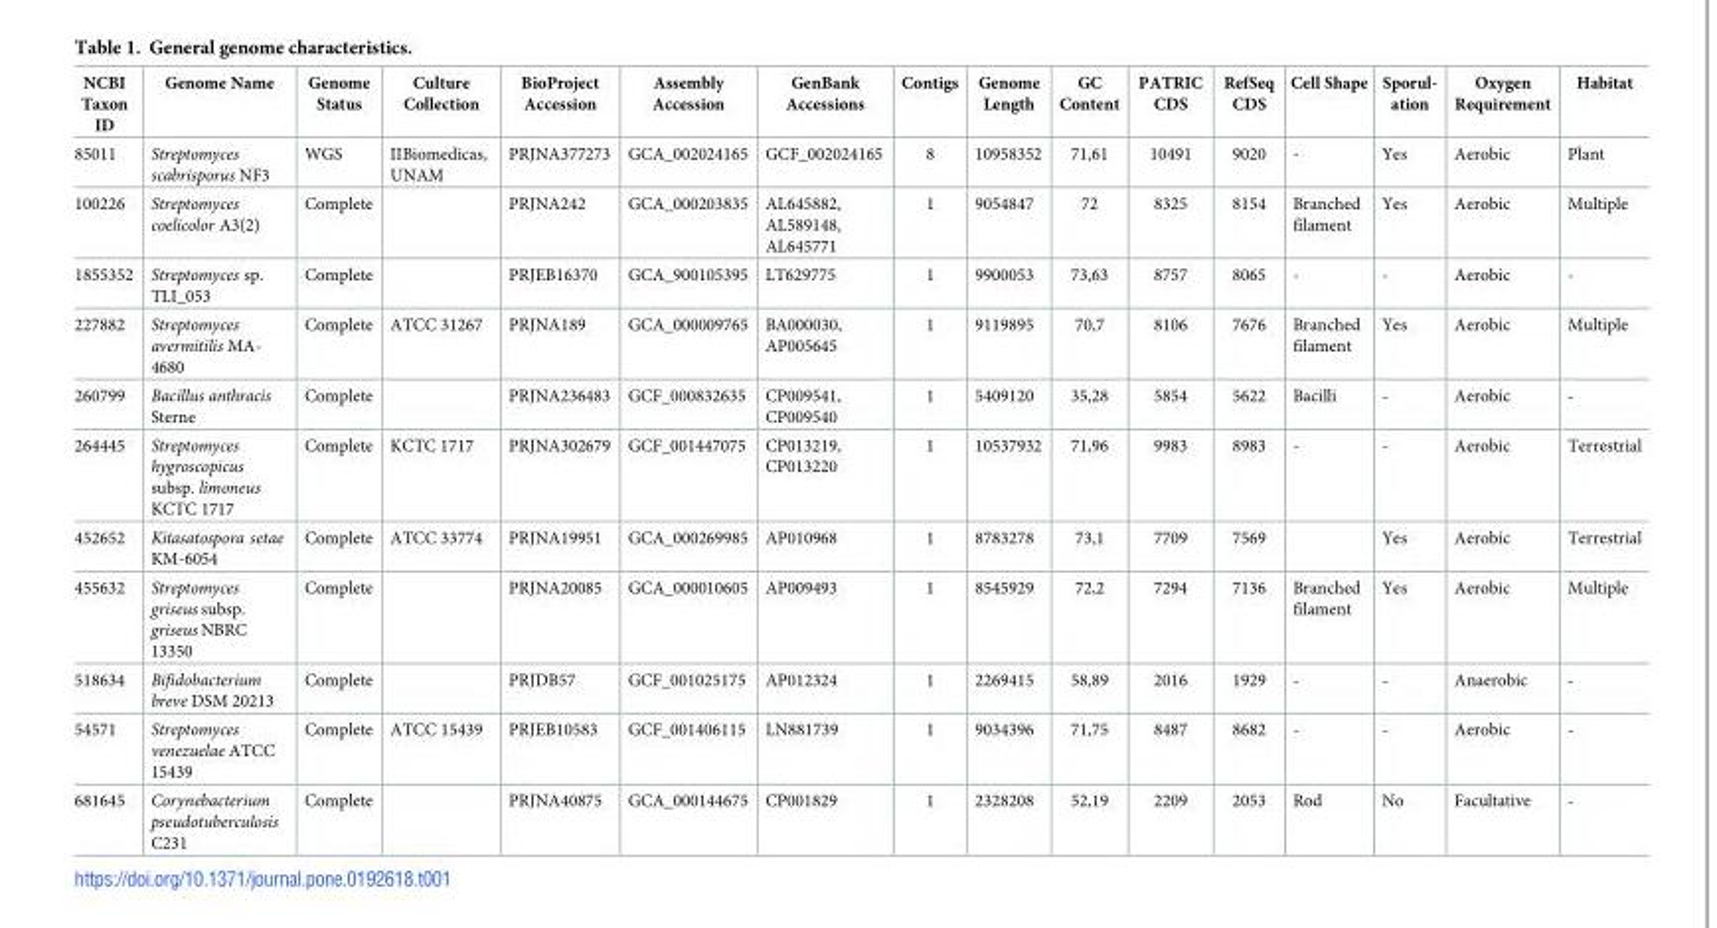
<table><thead><tr><td>NCBI Taxon ID</td><td>Genome Name</td><td>Genome Status</td><td>Culture Collection</td><td>BioProject Accession</td><td>Assembly Accession</td><td>GenBank Accessions</td><td>Contigs</td><td>Genome Length</td><td>GC Content</td><td>PATRIC CDS</td><td>RefSeq CDS</td><td>Cell Shape</td><td>Sporul- ation</td><td>Oxygen Requirement</td><td>Habitat</td></tr></thead><tbody><tr><td>85011</td><td>Streptomyces scabrisporus NF3</td><td>WGS</td><td>IIBiomedicas, UNAM</td><td>PRJNA377273</td><td>GCA_002024165</td><td>GCF_002024165</td><td>8</td><td>10958352</td><td>71,61</td><td>10491</td><td>9020</td><td>-</td><td>Yes</td><td>Aerobic</td><td>Plant</td></tr><tr><td>100226</td><td>Streptomyces coelicolor A3(2)</td><td>Complete</td><td></td><td>PRJNA242</td><td>GCA_000203835</td><td>AL645882, AL589148, AL645771</td><td>1</td><td>9054847</td><td>72</td><td>8325</td><td>8154</td><td>Branched filament</td><td>Yes</td><td>Aerobic</td><td>Multiple</td></tr><tr><td>1855352</td><td>Streptomyces sp. TLI_053</td><td>Complete</td><td></td><td>PRJEB16370</td><td>GCA_900105395</td><td>LT629775</td><td>1</td><td>9900053</td><td>73,63</td><td>8757</td><td>8065</td><td>-</td><td>-</td><td>Aerobic</td><td>-</td></tr><tr><td>227882</td><td>Streptomyces avermitilis MA- 4680</td><td>Complete</td><td>ATCC 31267</td><td>PRJNA189</td><td>GCA_000009765</td><td>BA000030, AP005645</td><td>1</td><td>9119895</td><td>70,7</td><td>8106</td><td>7676</td><td>Branched filament</td><td>Yes</td><td>Aerobic</td><td>Multiple</td></tr><tr><td>260799</td><td>Bacillus anthracis Sterne</td><td>Complete</td><td></td><td>PRJNA236483</td><td>GCF_000832635</td><td>CP009541, CP009540</td><td>1</td><td>5409120</td><td>35,28</td><td>5854</td><td>5622</td><td>Bacilli</td><td>-</td><td>Aerobic</td><td>-</td></tr><tr><td>264445</td><td>Streptomyces hygroscopicus subsp. limoneus KCTC 1717</td><td>Complete</td><td>KCTC 1717</td><td>PRJNA302679</td><td>GCF_001447075</td><td>CP013219, CP013220</td><td>1</td><td>10537932</td><td>71,96</td><td>9983</td><td>8983</td><td>-</td><td>-</td><td>Aerobic</td><td>Terrestrial</td></tr><tr><td>452652</td><td>Kitasatospora setae KM-6054</td><td>Complete</td><td>ATCC 33774</td><td>PRJNA19951</td><td>GCA_000269985</td><td>AP010968</td><td>1</td><td>8783278</td><td>73,1</td><td>7709</td><td>7569</td><td></td><td>Yes</td><td>Aerobic</td><td>Terrestrial</td></tr><tr><td>455632</td><td>Streptomyces griseus subsp. griseus NBRC 13350</td><td>Complete</td><td></td><td>PRJNA20085</td><td>GCA_000010605</td><td>AP009493</td><td>1</td><td>8545929</td><td>72,2</td><td>7294</td><td>7136</td><td>Branched filament</td><td>Yes</td><td>Aerobic</td><td>Multiple</td></tr><tr><td>518634</td><td>Bifidobacterium breve DSM 20213</td><td>Complete</td><td></td><td>PRJDB57</td><td>GCF_001025175</td><td>AP012324</td><td>1</td><td>2269415</td><td>58,89</td><td>2016</td><td>1929</td><td>-</td><td>-</td><td>Anaerobic</td><td>-</td></tr><tr><td>54571</td><td>Streptomyces venezuelae ATCC 15439</td><td>Complete</td><td>ATCC 15439</td><td>PRJEB10583</td><td>GCF_001406115</td><td>LN881739</td><td>1</td><td>9034396</td><td>71,75</td><td>8487</td><td>8682</td><td>-</td><td>-</td><td>Aerobic</td><td>-</td></tr><tr><td>681645</td><td>Corynebacterium pseudotuberculosis C231</td><td>Complete</td><td></td><td>PRJNA40875</td><td>GCA_000144675</td><td>CP001829</td><td>1</td><td>2328208</td><td>52,19</td><td>2209</td><td>2053</td><td>Rod</td><td>No</td><td>Facultative</td><td>-</td></tr></tbody></table>